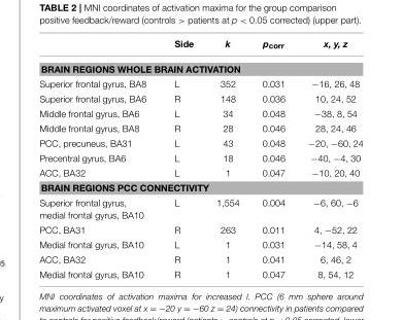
<table><thead><tr><td></td><td>Side</td><td>k</td><td>p<sub>corr</sub></td><td>x, y, z</td></tr></thead><tbody><tr><td colspan="5">BRAIN REGIONS WHOLE BRAIN ACTIVATION</td></tr><tr><td>Superior frontal gyrus, BA8</td><td>L</td><td>352</td><td>0.031</td><td>−16, 26, 48</td></tr><tr><td>Superior frontal gyrus, BA6</td><td>R</td><td>148</td><td>0.036</td><td>10, 24, 52</td></tr><tr><td>Middle frontal gyrus, BA6</td><td>L</td><td>34</td><td>0.048</td><td>−38, 8, 54</td></tr><tr><td>Middle frontal gyrus, BA8</td><td>R</td><td>28</td><td>0.046</td><td>28, 24, 46</td></tr><tr><td>PCC, precuneus, BA31</td><td>L</td><td>43</td><td>0.048</td><td>−20, −60, 24</td></tr><tr><td>Precentral gyrus, BA6</td><td>L</td><td>18</td><td>0.046</td><td>−40, −4, 30</td></tr><tr><td>ACC, BA32</td><td>L</td><td>1</td><td>0.047</td><td>−10, 20, 40</td></tr><tr><td colspan="5">BRAIN REGIONS PCC CONNECTIVITY</td></tr><tr><td>Superior frontal gyrus, medial frontal gyrus, BA10</td><td>L</td><td>1,554</td><td>0.004</td><td>−6, 60, −6</td></tr><tr><td>PCC, BA31</td><td>R</td><td>263</td><td>0.011</td><td>4, −52, 22</td></tr><tr><td>Medial frontal gyrus, BA10</td><td>L</td><td>1</td><td>0.031</td><td>−14, 58, 4</td></tr><tr><td>ACC, BA32</td><td>R</td><td>1</td><td>0.041</td><td>6, 46, 2</td></tr><tr><td>Medial frontal gyrus, BA10</td><td>R</td><td>1</td><td>0.047</td><td>8, 54, 12</td></tr></tbody></table>